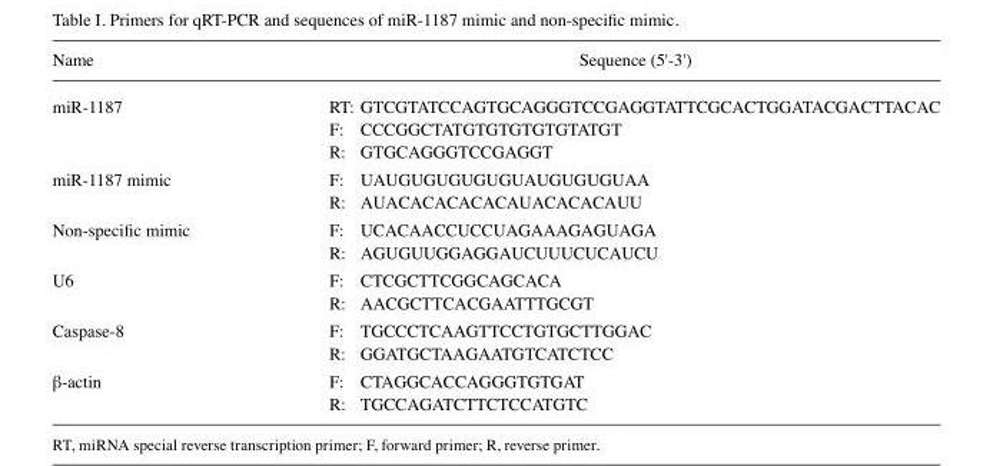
<table><thead><tr><td>Name</td><td>Sequence (5&#x27;-3&#x27;)</td></tr></thead><tbody><tr><td rowspan="3">miR-1187</td><td>RT: GTCGTATCCAGTGCAGGGTCCGAGGTATTCGCACTGGATACGACTTACAC</td></tr><tr><td>F: CCCGGCTATGTGTGTGTGTATGT</td></tr><tr><td>R: GTGCAGGGTCCGAGGT</td></tr><tr><td rowspan="2">miR-1187 mimic</td><td>F: UAUGUGUGUGUGUAUGUGUGUAA</td></tr><tr><td>R: AUACACACACACAUACACACAUU</td></tr><tr><td rowspan="2">Non-specific mimic</td><td>F: UCACAACCUCCUAGAAAGAGUAGA</td></tr><tr><td>R: AGUGUUGGAGGAUCUUUCUCAUCU</td></tr><tr><td rowspan="2">U6</td><td>F: CTCGCTTCGGCAGCACA</td></tr><tr><td>R: AACGCTTCACGAATTTGCGT</td></tr><tr><td rowspan="2">Caspase-8</td><td>F: TGCCCTCAAGTTCCTGTGCTTGGAC</td></tr><tr><td>R: GGATGCTAAGAATGTCATCTCC</td></tr><tr><td rowspan="2">β-actin</td><td>F: CTAGGCACCAGGGTGTGAT</td></tr><tr><td>R: TGCCAGATCTTCTCCATGTC</td></tr></tbody></table>